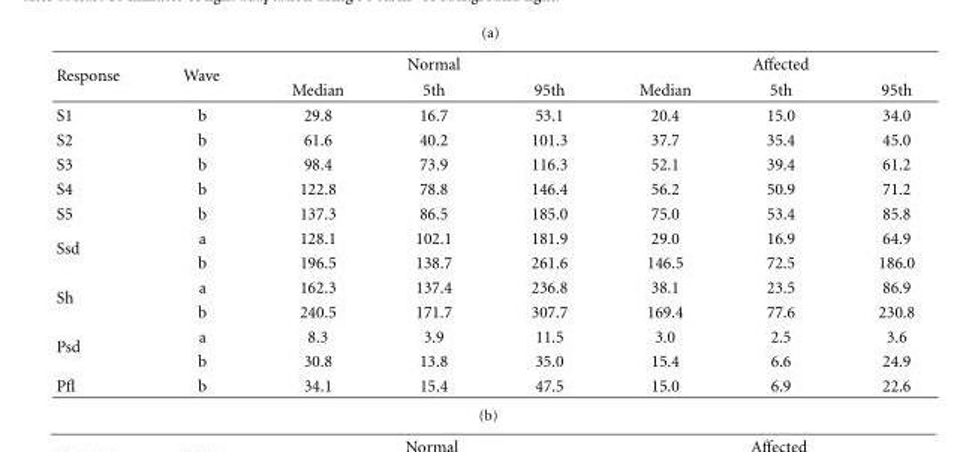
<table><thead><tr><td rowspan="2">Response</td><td rowspan="2">Wave</td><td colspan="3">Normal</td><td colspan="3">Affected</td></tr><tr><td>Median</td><td>5th</td><td>95th</td><td>Median</td><td>5th</td><td>95th</td></tr></thead><tbody><tr><td>S1</td><td>b</td><td>29.8</td><td>16.7</td><td>53.1</td><td>20.4</td><td>15.0</td><td>34.0</td></tr><tr><td>S2</td><td>b</td><td>61.6</td><td>40.2</td><td>101.3</td><td>37.7</td><td>35.4</td><td>45.0</td></tr><tr><td>S3</td><td>b</td><td>98.4</td><td>73.9</td><td>116.3</td><td>52.1</td><td>39.4</td><td>61.2</td></tr><tr><td>S4</td><td>b</td><td>122.8</td><td>78.8</td><td>146.4</td><td>56.2</td><td>50.9</td><td>71.2</td></tr><tr><td>S5</td><td>b</td><td>137.3</td><td>86.5</td><td>185.0</td><td>75.0</td><td>53.4</td><td>85.8</td></tr><tr><td rowspan="2">Ssd</td><td>a</td><td>128.1</td><td>102.1</td><td>181.9</td><td>29.0</td><td>16.9</td><td>64.9</td></tr><tr><td>b</td><td>196.5</td><td>138.7</td><td>261.6</td><td>146.5</td><td>72.5</td><td>186.0</td></tr><tr><td rowspan="2">Sh</td><td>a</td><td>162.3</td><td>137.4</td><td>236.8</td><td>38.1</td><td>23.5</td><td>86.9</td></tr><tr><td>b</td><td>240.5</td><td>171.7</td><td>307.7</td><td>169.4</td><td>77.6</td><td>230.8</td></tr><tr><td rowspan="2">Psd</td><td>a</td><td>8.3</td><td>3.9</td><td>11.5</td><td>3.0</td><td>2.5</td><td>3.6</td></tr><tr><td>b</td><td>30.8</td><td>13.8</td><td>35.0</td><td>15.4</td><td>6.6</td><td>24.9</td></tr><tr><td>Pfl</td><td>b</td><td>34.1</td><td>15.4</td><td>47.5</td><td>15.0</td><td>6.9</td><td>22.6</td></tr></tbody></table>